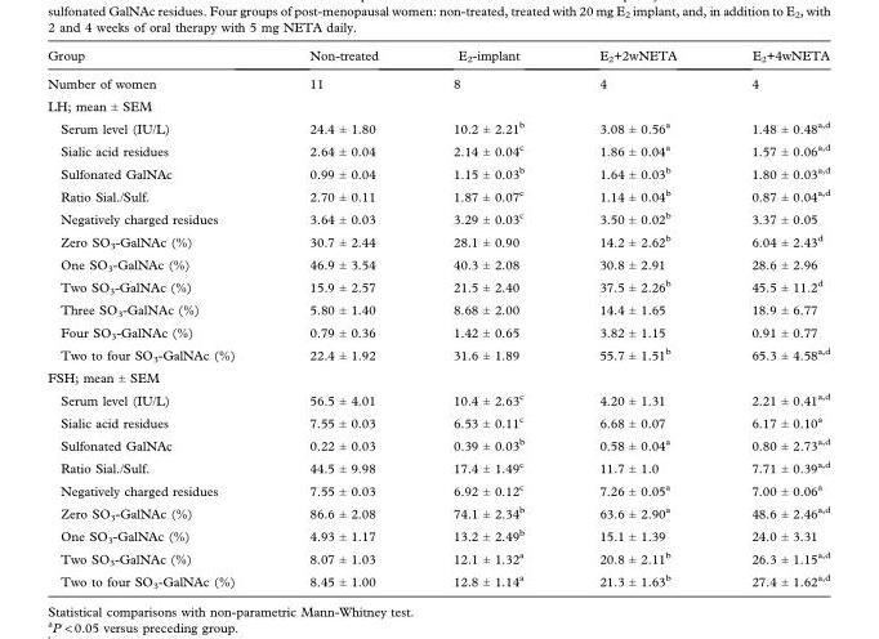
<table><thead><tr><td>Group</td><td>Non-treated</td><td>E<sub>2</sub>-implant</td><td>E<sub>2</sub>+2wNETA</td><td>E<sub>2</sub>+4wNETA</td></tr></thead><tbody><tr><td>Number of women</td><td>11</td><td>8</td><td>4</td><td>4</td></tr><tr><td colspan="5">LH; mean ± SEM</td></tr><tr><td>Serum level (IU/L)</td><td>24.4 ± 1.80</td><td>10.2 ± 2.21<sup>b</sup></td><td>3.08 ± 0.56<sup>a</sup></td><td>1.48 ± 0.48<sup>a,d</sup></td></tr><tr><td>Sialic acid residues</td><td>2.64 ± 0.04</td><td>2.14 ± 0.04<sup>c</sup></td><td>1.86 ± 0.04<sup>a</sup></td><td>1.57 ± 0.06<sup>a,d</sup></td></tr><tr><td>Sulfonated GalNAc</td><td>0.99 ± 0.04</td><td>1.15 ± 0.03<sup>b</sup></td><td>1.64 ± 0.03<sup>b</sup></td><td>1.80 ± 0.03<sup>a,d</sup></td></tr><tr><td>Ratio Sial./Sulf.</td><td>2.70 ± 0.11</td><td>1.87 ± 0.07<sup>c</sup></td><td>1.14 ± 0.04<sup>b</sup></td><td>0.87 ± 0.04<sup>a,d</sup></td></tr><tr><td>Negatively charged residues</td><td>3.64 ± 0.03</td><td>3.29 ± 0.03<sup>c</sup></td><td>3.50 ± 0.02<sup>b</sup></td><td>3.37 ± 0.05</td></tr><tr><td>Zero SO<sub>3</sub>-GalNAc (%)</td><td>30.7 ± 2.44</td><td>28.1 ± 0.90</td><td>14.2 ± 2.62<sup>b</sup></td><td>6.04 ± 2.43<sup>d</sup></td></tr><tr><td>One SO<sub>3</sub>-GalNAc (%)</td><td>46.9 ± 3.54</td><td>40.3 ± 2.08</td><td>30.8 ± 2.91</td><td>28.6 ± 2.96</td></tr><tr><td>Two SO<sub>3</sub>-GalNAc (%)</td><td>15.9 ± 2.57</td><td>21.5 ± 2.40</td><td>37.5 ± 2.26<sup>b</sup></td><td>45.5 ± 11.2<sup>d</sup></td></tr><tr><td>Three SO<sub>3</sub>-GalNAc (%)</td><td>5.80 ± 1.40</td><td>8.68 ± 2.00</td><td>14.4 ± 1.65</td><td>18.9 ± 6.77</td></tr><tr><td>Four SO<sub>3</sub>-GalNAc (%)</td><td>0.79 ± 0.36</td><td>1.42 ± 0.65</td><td>3.82 ± 1.15</td><td>0.91 ± 0.77</td></tr><tr><td>Two to four SO<sub>3</sub>-GalNAc (%)</td><td>22.4 ± 1.92</td><td>31.6 ± 1.89</td><td>55.7 ± 1.51<sup>b</sup></td><td>65.3 ± 4.58<sup>a,d</sup></td></tr><tr><td colspan="5">FSH; mean ± SEM</td></tr><tr><td>Serum level (IU/L)</td><td>56.5 ± 4.01</td><td>10.4 ± 2.63<sup>c</sup></td><td>4.20 ± 1.31</td><td>2.21 ± 0.41<sup>a,d</sup></td></tr><tr><td>Sialic acid residues</td><td>7.55 ± 0.03</td><td>6.53 ± 0.11<sup>c</sup></td><td>6.68 ± 0.07</td><td>6.17 ± 0.10<sup>a</sup></td></tr><tr><td>Sulfonated GalNAc</td><td>0.22 ± 0.03</td><td>0.39 ± 0.03<sup>b</sup></td><td>0.58 ± 0.04<sup>a</sup></td><td>0.80 ± 2.73<sup>a,d</sup></td></tr><tr><td>Ratio Sial./Sulf.</td><td>44.5 ± 9.98</td><td>17.4 ± 1.49<sup>c</sup></td><td>11.7 ± 1.0</td><td>7.71 ± 0.39<sup>a,d</sup></td></tr><tr><td>Negatively charged residues</td><td>7.55 ± 0.03</td><td>6.92 ± 0.12<sup>c</sup></td><td>7.26 ± 0.05<sup>a</sup></td><td>7.00 ± 0.06<sup>a</sup></td></tr><tr><td>Zero SO<sub>3</sub>-GalNAc (%)</td><td>86.6 ± 2.08</td><td>74.1 ± 2.34<sup>b</sup></td><td>63.6 ± 2.90<sup>a</sup></td><td>48.6 ± 2.46<sup>a,d</sup></td></tr><tr><td>One SO<sub>3</sub>-GalNAc (%)</td><td>4.93 ± 1.17</td><td>13.2 ± 2.49<sup>b</sup></td><td>15.1 ± 1.39</td><td>24.0 ± 3.31</td></tr><tr><td>Two SO<sub>3</sub>-GalNAc (%)</td><td>8.07 ± 1.03</td><td>12.1 ± 1.32<sup>a</sup></td><td>20.8 ± 2.11<sup>b</sup></td><td>26.3 ± 1.15<sup>a,d</sup></td></tr><tr><td>Two to four SO<sub>3</sub>-GalNAc (%)</td><td>8.45 ± 1.00</td><td>12.8 ± 1.14<sup>a</sup></td><td>21.3 ± 1.63<sup>b</sup></td><td>27.4 ± 1.62<sup>a,d</sup></td></tr></tbody></table>